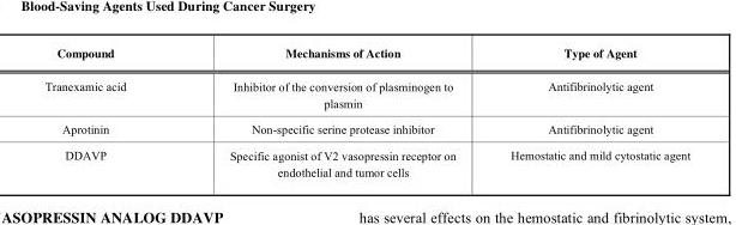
<table><thead><tr><td>Compound</td><td>Mechanisms of Action</td><td>Type of Agent</td></tr></thead><tbody><tr><td>Tranexamic acid</td><td>Inhibitor of the conversion of plasminogen to plasmin</td><td>Antifibrinolytic agent</td></tr><tr><td>Aprotinin</td><td>Non-specific serine protease inhibitor</td><td>Antifibrinolytic agent</td></tr><tr><td>DDAVP</td><td>Specific agonist of V2 vasopressin receptor on endothelial and tumor cells</td><td>Hemostatic and mild cytostatic agent</td></tr></tbody></table>